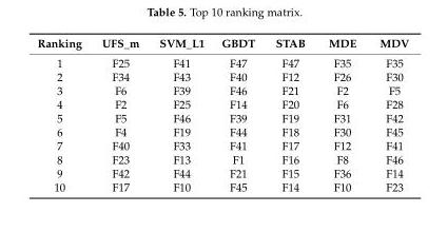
<table><thead><tr><td>Ranking</td><td>UFS_m</td><td>SVM_L1</td><td>GBDT</td><td>STAB</td><td>MDE</td><td>MDV</td></tr></thead><tbody><tr><td>1</td><td>F25</td><td>F41</td><td>F47</td><td>F47</td><td>F35</td><td>F35</td></tr><tr><td>2</td><td>F34</td><td>F43</td><td>F40</td><td>F12</td><td>F26</td><td>F30</td></tr><tr><td>3</td><td>F6</td><td>F39</td><td>F46</td><td>F21</td><td>F2</td><td>F5</td></tr><tr><td>4</td><td>F2</td><td>F25</td><td>F14</td><td>F20</td><td>F6</td><td>F28</td></tr><tr><td>5</td><td>F5</td><td>F46</td><td>F39</td><td>F19</td><td>F31</td><td>F42</td></tr><tr><td>6</td><td>F4</td><td>F19</td><td>F44</td><td>F18</td><td>F30</td><td>F45</td></tr><tr><td>7</td><td>F40</td><td>F33</td><td>F41</td><td>F17</td><td>F12</td><td>F41</td></tr><tr><td>8</td><td>F23</td><td>F13</td><td>F1</td><td>F16</td><td>F8</td><td>F46</td></tr><tr><td>9</td><td>F42</td><td>F44</td><td>F21</td><td>F15</td><td>F36</td><td>F14</td></tr><tr><td>10</td><td>F17</td><td>F10</td><td>F45</td><td>F14</td><td>F10</td><td>F23</td></tr></tbody></table>